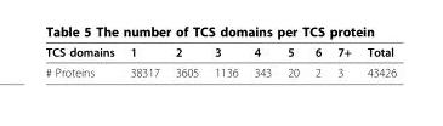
<table><thead><tr><td>TCS domains</td><td>1</td><td>2</td><td>3</td><td>4</td><td>5</td><td>6</td><td>7+</td><td>Total</td></tr></thead><tbody><tr><td># Proteins</td><td>38317</td><td>3605</td><td>1136</td><td>343</td><td>20</td><td>2</td><td>3</td><td>43426</td></tr></tbody></table>